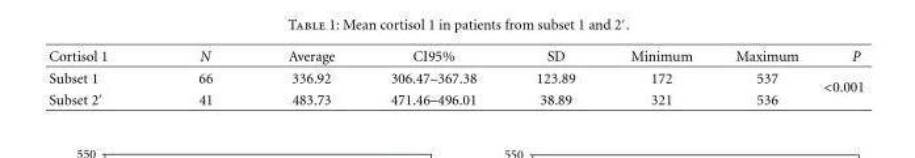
<table><thead><tr><td>Cortisol 1</td><td>N</td><td>Average</td><td>CI95%</td><td>SD</td><td>Minimum</td><td>Maximum</td><td>P</td></tr></thead><tbody><tr><td>Subset 1</td><td>66</td><td>336.92</td><td>306.47–367.38</td><td>123.89</td><td>172</td><td>537</td><td rowspan="2">&lt;0.001</td></tr><tr><td>Subset 2′</td><td>41</td><td>483.73</td><td>471.46–496.01</td><td>38.89</td><td>321</td><td>536</td></tr></tbody></table>